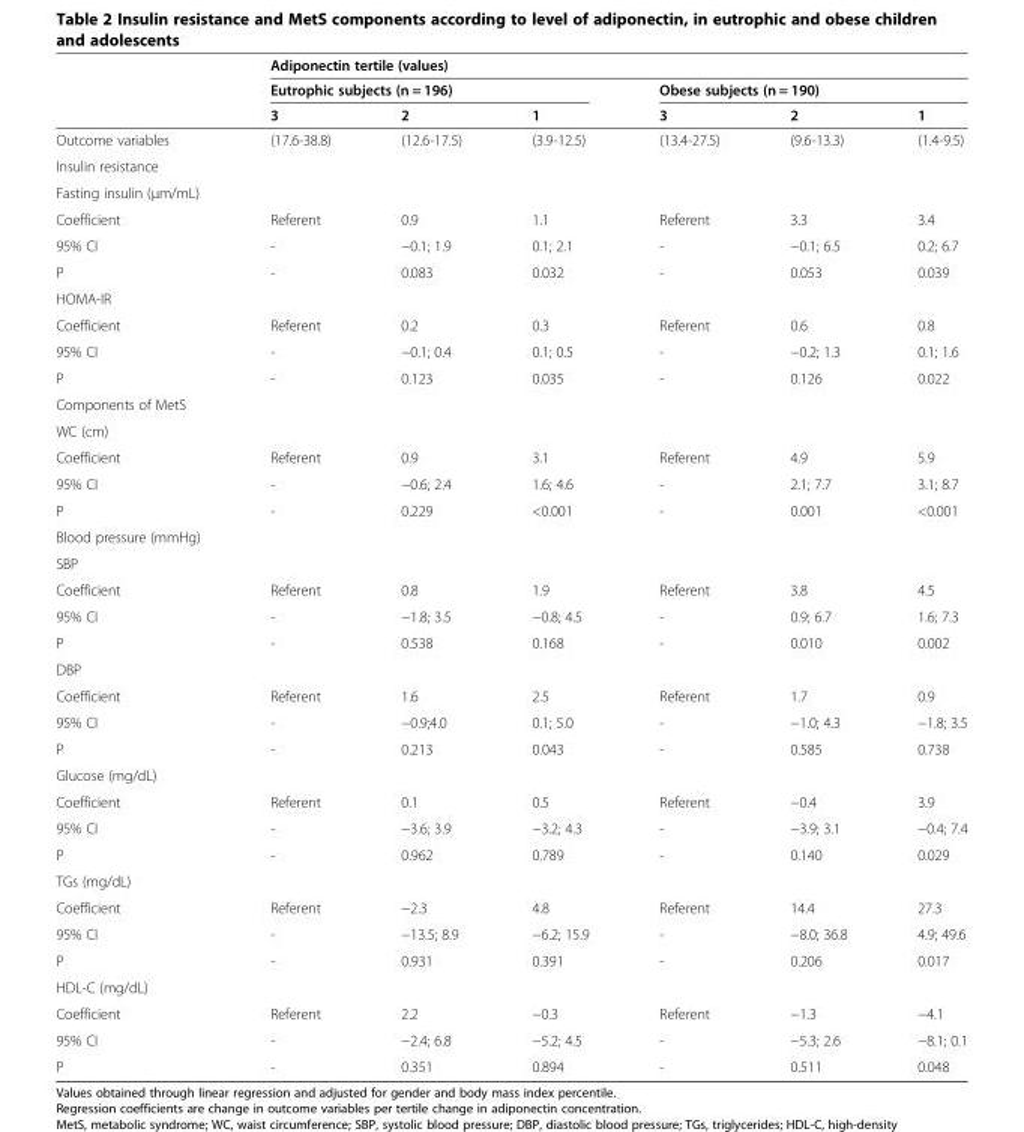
<table><thead><tr><td rowspan="3"></td><td colspan="6">Adiponectin tertile (values)</td></tr><tr><td colspan="3">Eutrophic subjects (n = 196)</td><td colspan="3">Obese subjects (n = 190)</td></tr><tr><td>3</td><td>2</td><td>1</td><td>3</td><td>2</td><td>1</td></tr></thead><tbody><tr><td>Outcome variables</td><td>(17.6-38.8)</td><td>(12.6-17.5)</td><td>(3.9-12.5)</td><td>(13.4-27.5)</td><td>(9.6-13.3)</td><td>(1.4-9.5)</td></tr><tr><td colspan="7">Insulin resistance</td></tr><tr><td colspan="7">Fasting insulin (μm/mL)</td></tr><tr><td>Coefficient</td><td>Referent</td><td>0.9</td><td>1.1</td><td>Referent</td><td>3.3</td><td>3.4</td></tr><tr><td>95% CI</td><td>-</td><td>−0.1; 1.9</td><td>0.1; 2.1</td><td>-</td><td>−0.1; 6.5</td><td>0.2; 6.7</td></tr><tr><td>P</td><td>-</td><td>0.083</td><td>0.032</td><td>-</td><td>0.053</td><td>0.039</td></tr><tr><td colspan="7">HOMA-IR</td></tr><tr><td>Coefficient</td><td>Referent</td><td>0.2</td><td>0.3</td><td>Referent</td><td>0.6</td><td>0.8</td></tr><tr><td>95% CI</td><td>-</td><td>−0.1; 0.4</td><td>0.1; 0.5</td><td>-</td><td>−0.2; 1.3</td><td>0.1; 1.6</td></tr><tr><td>P</td><td>-</td><td>0.123</td><td>0.035</td><td>-</td><td>0.126</td><td>0.022</td></tr><tr><td colspan="7">Components of MetS</td></tr><tr><td colspan="7">WC (cm)</td></tr><tr><td>Coefficient</td><td>Referent</td><td>0.9</td><td>3.1</td><td>Referent</td><td>4.9</td><td>5.9</td></tr><tr><td>95% CI</td><td>-</td><td>−0.6; 2.4</td><td>1.6; 4.6</td><td>-</td><td>2.1; 7.7</td><td>3.1; 8.7</td></tr><tr><td>P</td><td>-</td><td>0.229</td><td>&lt;0.001</td><td>-</td><td>0.001</td><td>&lt;0.001</td></tr><tr><td colspan="7">Blood pressure (mmHg)</td></tr><tr><td colspan="7">SBP</td></tr><tr><td>Coefficient</td><td>Referent</td><td>0.8</td><td>1.9</td><td>Referent</td><td>3.8</td><td>4.5</td></tr><tr><td>95% CI</td><td>-</td><td>−1.8; 3.5</td><td>−0.8; 4.5</td><td>-</td><td>0.9; 6.7</td><td>1.6; 7.3</td></tr><tr><td>P</td><td>-</td><td>0.538</td><td>0.168</td><td>-</td><td>0.010</td><td>0.002</td></tr><tr><td colspan="7">DBP</td></tr><tr><td>Coefficient</td><td>Referent</td><td>1.6</td><td>2.5</td><td>Referent</td><td>1.7</td><td>0.9</td></tr><tr><td>95% CI</td><td>-</td><td>−0.9;4.0</td><td>0.1; 5.0</td><td>-</td><td>−1.0; 4.3</td><td>−1.8; 3.5</td></tr><tr><td>P</td><td>-</td><td>0.213</td><td>0.043</td><td>-</td><td>0.585</td><td>0.738</td></tr><tr><td colspan="7">Glucose (mg/dL)</td></tr><tr><td>Coefficient</td><td>Referent</td><td>0.1</td><td>0.5</td><td>Referent</td><td>−0.4</td><td>3.9</td></tr><tr><td>95% CI</td><td>-</td><td>−3.6; 3.9</td><td>−3.2; 4.3</td><td>-</td><td>−3.9; 3.1</td><td>−0.4; 7.4</td></tr><tr><td>P</td><td>-</td><td>0.962</td><td>0.789</td><td>-</td><td>0.140</td><td>0.029</td></tr><tr><td colspan="7">TGs (mg/dL)</td></tr><tr><td>Coefficient</td><td>Referent</td><td>−2.3</td><td>4.8</td><td>Referent</td><td>14.4</td><td>27.3</td></tr><tr><td>95% CI</td><td>-</td><td>−13.5; 8.9</td><td>−6.2; 15.9</td><td>-</td><td>−8.0; 36.8</td><td>4.9; 49.6</td></tr><tr><td>P</td><td>-</td><td>0.931</td><td>0.391</td><td>-</td><td>0.206</td><td>0.017</td></tr><tr><td colspan="7">HDL-C (mg/dL)</td></tr><tr><td>Coefficient</td><td>Referent</td><td>2.2</td><td>−0.3</td><td>Referent</td><td>−1.3</td><td>−4.1</td></tr><tr><td>95% CI</td><td>-</td><td>−2.4; 6.8</td><td>−5.2; 4.5</td><td>-</td><td>−5.3; 2.6</td><td>−8.1; 0.1</td></tr><tr><td>P</td><td>-</td><td>0.351</td><td>0.894</td><td>-</td><td>0.511</td><td>0.048</td></tr></tbody></table>